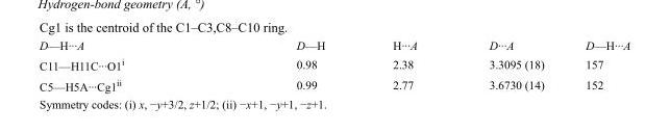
<table><tbody><tr><td>D—H···A</td><td>D—H</td><td>H···A</td><td>D···A</td><td>D—H···A</td></tr><tr><td>C11—H11C···O1<sup>i</sup></td><td>0.98</td><td>2.38</td><td>3.3095 (18)</td><td>157</td></tr><tr><td>C5—H5A···Cg1<sup>ii</sup></td><td>0.99</td><td>2.77</td><td>3.6730 (14)</td><td>152</td></tr></tbody></table>